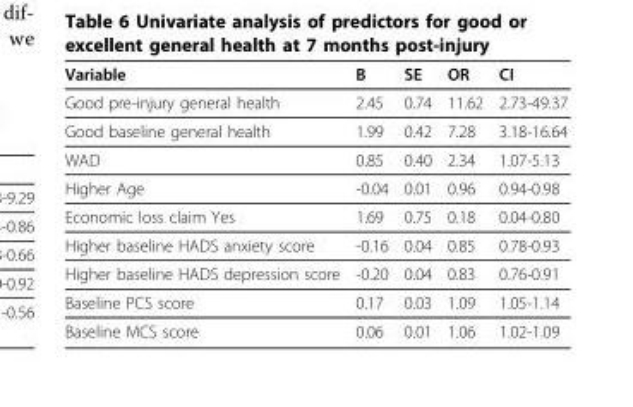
<table><thead><tr><td>Variable</td><td>B</td><td>SE</td><td>OR</td><td>CI</td></tr></thead><tbody><tr><td>Good pre-injury general health</td><td>2.45</td><td>0.74</td><td>11.62</td><td>2.73-49.37</td></tr><tr><td>Good baseline general health</td><td>1.99</td><td>0.42</td><td>7.28</td><td>3.18-16.64</td></tr><tr><td>WAD</td><td>0.85</td><td>0.40</td><td>2.34</td><td>1.07-5.13</td></tr><tr><td>Higher Age</td><td>-0.04</td><td>0.01</td><td>0.96</td><td>0.94-0.98</td></tr><tr><td>Economic loss claim Yes</td><td>1.69</td><td>0.75</td><td>0.18</td><td>0.04-0.80</td></tr><tr><td>Higher baseline HADS anxiety score</td><td>-0.16</td><td>0.04</td><td>0.85</td><td>0.78-0.93</td></tr><tr><td>Higher baseline HADS depression score</td><td>-0.20</td><td>0.04</td><td>0.83</td><td>0.76-0.91</td></tr><tr><td>Baseline PCS score</td><td>0.17</td><td>0.03</td><td>1.09</td><td>1.05-1.14</td></tr><tr><td>Baseline MCS score</td><td>0.06</td><td>0.01</td><td>1.06</td><td>1.02-1.09</td></tr></tbody></table>